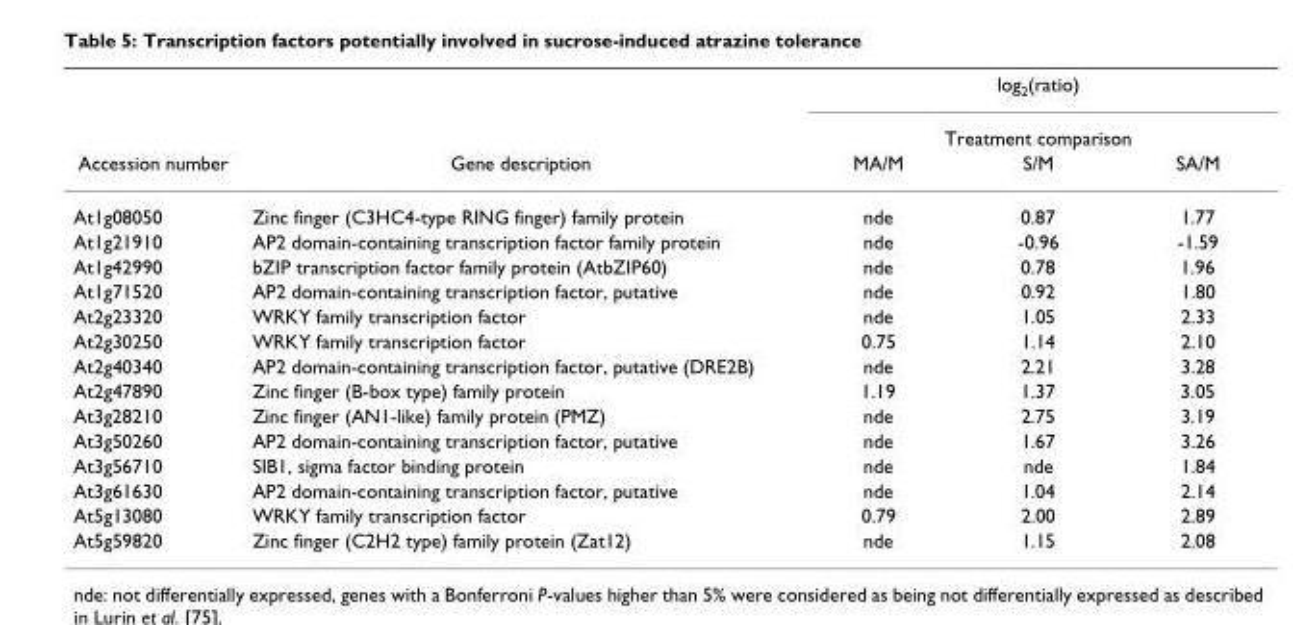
<table><thead><tr><td rowspan="3">Accession number</td><td rowspan="3">Gene description</td><td rowspan="2" colspan="3">log<sub>2</sub>(ratio) Treatment comparison</td></tr><tr></tr><tr><td>MA/M</td><td>S/M</td><td>SA/M</td></tr></thead><tbody><tr><td>At1g08050</td><td>Zinc finger (C3HC4-type RING finger) family protein</td><td>nde</td><td>0.87</td><td>1.77</td></tr><tr><td>At1g21910</td><td>AP2 domain-containing transcription factor family protein</td><td>nde</td><td>-0.96</td><td>-1.59</td></tr><tr><td>At1g42990</td><td>bZIP transcription factor family protein (AtbZIP60)</td><td>nde</td><td>0.78</td><td>1.96</td></tr><tr><td>At1g71520</td><td>AP2 domain-containing transcription factor, putative</td><td>nde</td><td>0.92</td><td>1.80</td></tr><tr><td>At2g23320</td><td>WRKY family transcription factor</td><td>nde</td><td>1.05</td><td>2.33</td></tr><tr><td>At2g30250</td><td>WRKY family transcription factor</td><td>0.75</td><td>1.14</td><td>2.10</td></tr><tr><td>At2g40340</td><td>AP2 domain-containing transcription factor, putative (DRE2B)</td><td>nde</td><td>2.21</td><td>3.28</td></tr><tr><td>At2g47890</td><td>Zinc finger (B-box type) family protein</td><td>1.19</td><td>1.37</td><td>3.05</td></tr><tr><td>At3g28210</td><td>Zinc finger (AN1-like) family protein (PMZ)</td><td>nde</td><td>2.75</td><td>3.19</td></tr><tr><td>At3g50260</td><td>AP2 domain-containing transcription factor, putative</td><td>nde</td><td>1.67</td><td>3.26</td></tr><tr><td>At3g56710</td><td>SIB1, sigma factor binding protein</td><td>nde</td><td>nde</td><td>1.84</td></tr><tr><td>At3g61630</td><td>AP2 domain-containing transcription factor, putative</td><td>nde</td><td>1.04</td><td>2.14</td></tr><tr><td>At5g13080</td><td>WRKY family transcription factor</td><td>0.79</td><td>2.00</td><td>2.89</td></tr><tr><td>At5g59820</td><td>Zinc finger (C2H2 type) family protein (Zat12)</td><td>nde</td><td>1.15</td><td>2.08</td></tr></tbody></table>